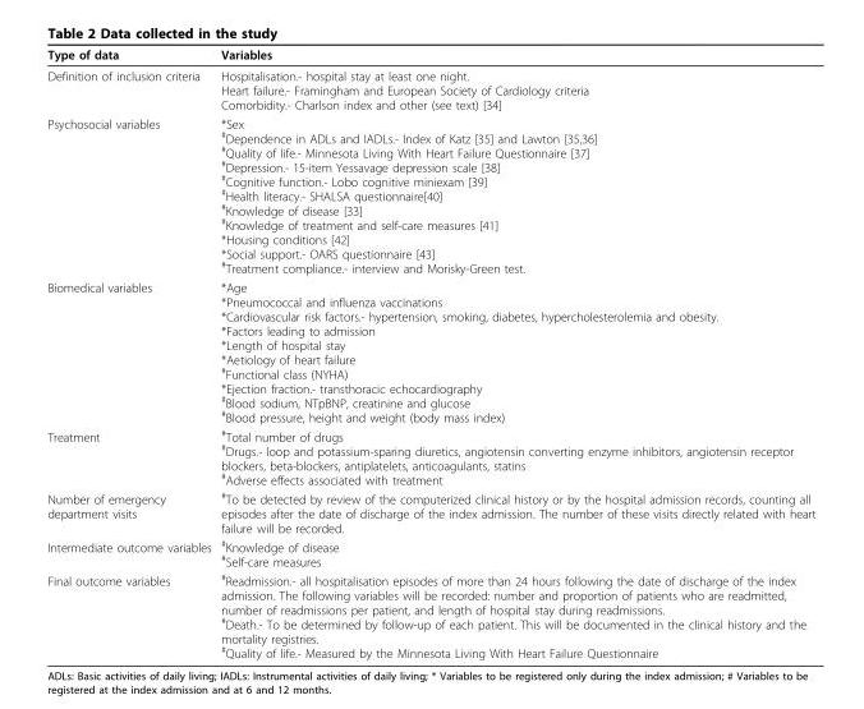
<table><thead><tr><td>Type of data</td><td>Variables</td></tr></thead><tbody><tr><td>Definition of inclusion criteria</td><td>Hospitalisation.- hospital stay at least one night. Heart failure.- Framingham and European Society of Cardiology criteria Comorbidity.- Charlson index and other (see text) [34]</td></tr><tr><td>Psychosocial variables</td><td>*Sex <sup>#</sup>Dependence in ADLs and IADLs.- Index of Katz [35] and Lawton [35,36] <sup>#</sup>Quality of life.- Minnesota Living With Heart Failure Questionnaire [37] <sup>#</sup>Depression.- 15-item Yessavage depression scale [38] <sup>#</sup>Cognitive function.- Lobo cognitive miniexam [39] <sup>#</sup>Health literacy.- SHALSA questionnaire[40] <sup>#</sup>Knowledge of disease [33] <sup>#</sup>Knowledge of treatment and self-care measures [41] *Housing conditions [42] *Social support.- OARS questionnaire [43] <sup>#</sup>Treatment compliance.- interview and Morisky-Green test.</td></tr><tr><td>Biomedical variables</td><td>*Age *Pneumococcal and influenza vaccinations *Cardiovascular risk factors.- hypertension, smoking, diabetes, hypercholesterolemia and obesity. *Factors leading to admission *Length of hospital stay *Aetiology of heart failure <sup>#</sup>Functional class (NYHA) *Ejection fraction.- transthoracic echocardiography <sup>#</sup>Blood sodium, NTpBNP, creatinine and glucose <sup>#</sup>Blood pressure, height and weight (body mass index)</td></tr><tr><td>Treatment</td><td><sup>#</sup>Total number of drugs <sup>#</sup>Drugs.- loop and potassium-sparing diuretics, angiotensin converting enzyme inhibitors, angiotensin receptor blockers, beta-blockers, antiplatelets, anticoagulants, statins <sup>#</sup>Adverse effects associated with treatment</td></tr><tr><td>Number of emergency department visits</td><td><sup>#</sup>To be detected by review of the computerized clinical history or by the hospital admission records, counting all episodes after the date of discharge of the index admission. The number of these visits directly related with heart failure will be recorded.</td></tr><tr><td>Intermediate outcome variables</td><td><sup>#</sup>Knowledge of disease <sup>#</sup>Self-care measures</td></tr><tr><td>Final outcome variables</td><td><sup>#</sup>Readmission.- all hospitalisation episodes of more than 24 hours following the date of discharge of the index admission. The following variables will be recorded: number and proportion of patients who are readmitted, number of readmissions per patient, and length of hospital stay during readmissions. <sup>#</sup>Death.- To be determined by follow-up of each patient. This will be documented in the clinical history and the mortality registries. <sup>#</sup>Quality of life.- Measured by the Minnesota Living With Heart Failure Questionnaire</td></tr></tbody></table>